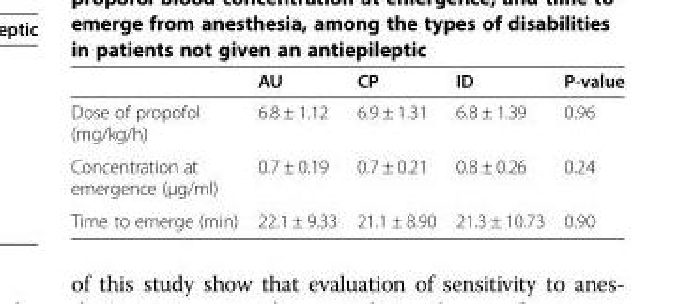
<table><thead><tr><td></td><td>AU</td><td>CP</td><td>ID</td><td>P-value</td></tr></thead><tbody><tr><td>Dose of propofol (mg/kg/h)</td><td>6.8 ± 1.12</td><td>6.9 ± 1.31</td><td>6.8 ± 1.39</td><td>0.96</td></tr><tr><td>Concentration at emergence (μg/ml)</td><td>0.7 ± 0.19</td><td>0.7 ± 0.21</td><td>0.8 ± 0.26</td><td>0.24</td></tr><tr><td>Time to emerge (min)</td><td>22.1 ± 9.33</td><td>21.1 ± 8.90</td><td>21.3 ± 10.73</td><td>0.90</td></tr></tbody></table>